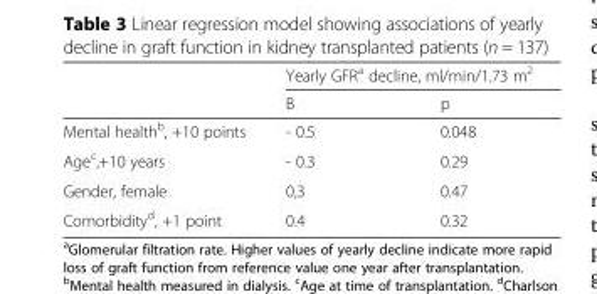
<table><thead><tr><td rowspan="2"></td><td colspan="2">Yearly GFR<sup>a</sup> decline, ml/min/1.73 m<sup>2</sup></td></tr><tr><td>B</td><td>p</td></tr></thead><tbody><tr><td>Mental health<sup>b</sup>, +10 points</td><td>- 0.5</td><td>0.048</td></tr><tr><td>Age<sup>c</sup>,+10 years</td><td>- 0.3</td><td>0.29</td></tr><tr><td>Gender, female</td><td>0,3</td><td>0.47</td></tr><tr><td>Comorbidity<sup>d</sup>, +1 point</td><td>0.4</td><td>0.32</td></tr></tbody></table>